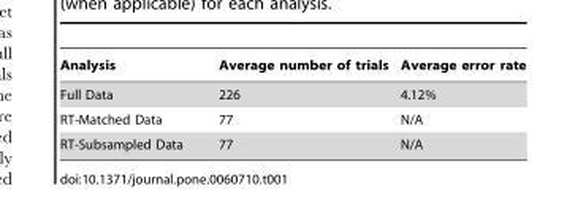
<table><thead><tr><td>Analysis</td><td>Average number of trials</td><td>Average error rate</td></tr></thead><tbody><tr><td>Full Data</td><td>226</td><td>4.12%</td></tr><tr><td>RT-Matched Data</td><td>77</td><td>N/A</td></tr><tr><td>RT-Subsampled Data</td><td>77</td><td>N/A</td></tr></tbody></table>